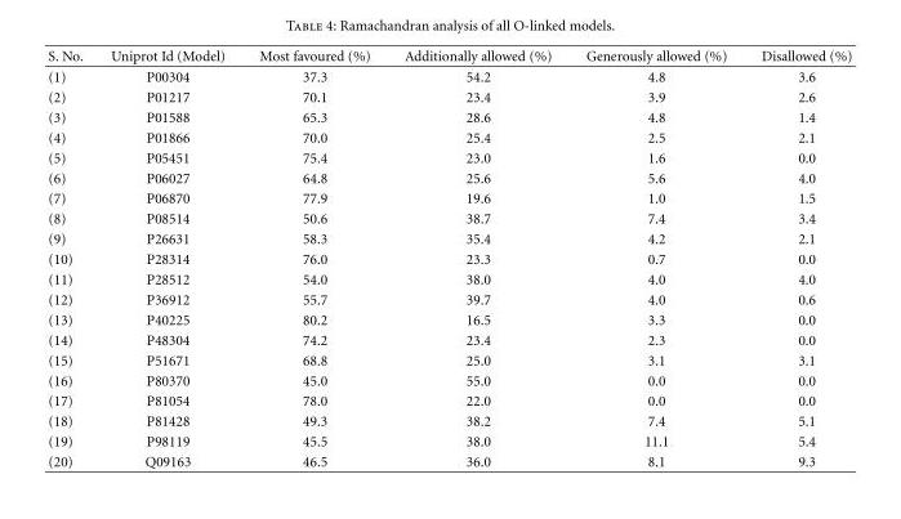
<table><thead><tr><td>S. No.</td><td>Uniprot Id (Model)</td><td>Most favoured (%)</td><td>Additionally allowed (%)</td><td>Generously allowed (%)</td><td>Disallowed (%)</td></tr></thead><tbody><tr><td>(1)</td><td>P00304</td><td>37.3</td><td>54.2</td><td>4.8</td><td>3.6</td></tr><tr><td>(2)</td><td>P01217</td><td>70.1</td><td>23.4</td><td>3.9</td><td>2.6</td></tr><tr><td>(3)</td><td>P01588</td><td>65.3</td><td>28.6</td><td>4.8</td><td>1.4</td></tr><tr><td>(4)</td><td>P01866</td><td>70.0</td><td>25.4</td><td>2.5</td><td>2.1</td></tr><tr><td>(5)</td><td>P05451</td><td>75.4</td><td>23.0</td><td>1.6</td><td>0.0</td></tr><tr><td>(6)</td><td>P06027</td><td>64.8</td><td>25.6</td><td>5.6</td><td>4.0</td></tr><tr><td>(7)</td><td>P06870</td><td>77.9</td><td>19.6</td><td>1.0</td><td>1.5</td></tr><tr><td>(8)</td><td>P08514</td><td>50.6</td><td>38.7</td><td>7.4</td><td>3.4</td></tr><tr><td>(9)</td><td>P26631</td><td>58.3</td><td>35.4</td><td>4.2</td><td>2.1</td></tr><tr><td>(10)</td><td>P28314</td><td>76.0</td><td>23.3</td><td>0.7</td><td>0.0</td></tr><tr><td>(11)</td><td>P28512</td><td>54.0</td><td>38.0</td><td>4.0</td><td>4.0</td></tr><tr><td>(12)</td><td>P36912</td><td>55.7</td><td>39.7</td><td>4.0</td><td>0.6</td></tr><tr><td>(13)</td><td>P40225</td><td>80.2</td><td>16.5</td><td>3.3</td><td>0.0</td></tr><tr><td>(14)</td><td>P48304</td><td>74.2</td><td>23.4</td><td>2.3</td><td>0.0</td></tr><tr><td>(15)</td><td>P51671</td><td>68.8</td><td>25.0</td><td>3.1</td><td>3.1</td></tr><tr><td>(16)</td><td>P80370</td><td>45.0</td><td>55.0</td><td>0.0</td><td>0.0</td></tr><tr><td>(17)</td><td>P81054</td><td>78.0</td><td>22.0</td><td>0.0</td><td>0.0</td></tr><tr><td>(18)</td><td>P81428</td><td>49.3</td><td>38.2</td><td>7.4</td><td>5.1</td></tr><tr><td>(19)</td><td>P98119</td><td>45.5</td><td>38.0</td><td>11.1</td><td>5.4</td></tr><tr><td>(20)</td><td>Q09163</td><td>46.5</td><td>36.0</td><td>8.1</td><td>9.3</td></tr></tbody></table>